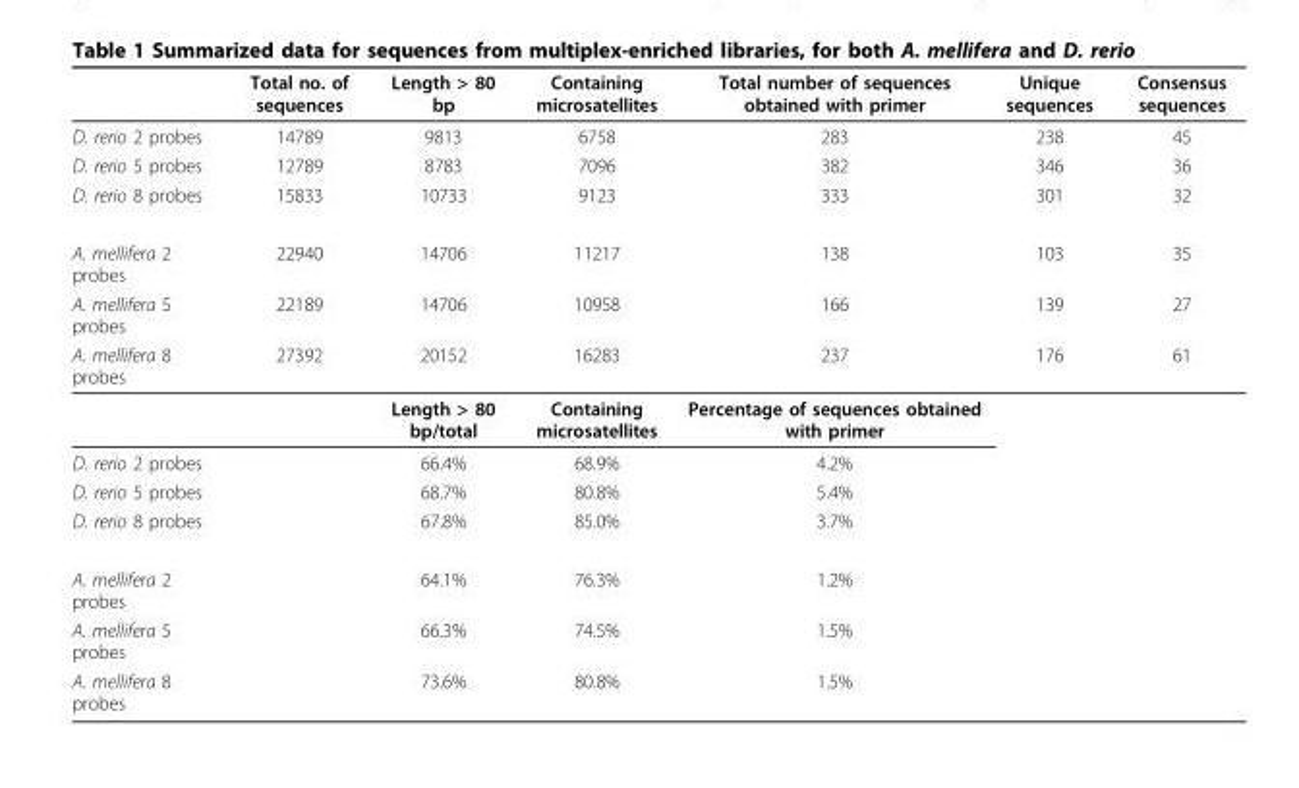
<table><thead><tr><td></td><td>Total no. of sequences</td><td>Length &gt; 80 bp</td><td>Containing microsatellites</td><td>Total number of sequences obtained with primer</td><td>Unique sequences</td><td>Consensus sequences</td></tr></thead><tbody><tr><td>D. rerio 2 probes</td><td>14789</td><td>9813</td><td>6758</td><td>283</td><td>238</td><td>45</td></tr><tr><td>D. rerio 5 probes</td><td>12789</td><td>8783</td><td>7096</td><td>382</td><td>346</td><td>36</td></tr><tr><td>D. rerio 8 probes</td><td>15833</td><td>10733</td><td>9123</td><td>333</td><td>301</td><td>32</td></tr><tr><td>A. mellifera 2 probes</td><td>22940</td><td>14706</td><td>11217</td><td>138</td><td>103</td><td>35</td></tr><tr><td>A. mellifera 5 probes</td><td>22189</td><td>14706</td><td>10958</td><td>166</td><td>139</td><td>27</td></tr><tr><td rowspan="2">A. mellifera 8 probes</td><td>27392</td><td>20152</td><td>16283</td><td>237</td><td>176</td><td>61</td></tr><tr><td></td><td>Length &gt; 80 bp/total</td><td>Containing microsatellites</td><td>Percentage of sequences obtained with primer</td><td></td><td></td></tr><tr><td>D. rerio 2 probes</td><td></td><td>66.4%</td><td>68.9%</td><td>4.2%</td><td></td><td></td></tr><tr><td>D. rerio 5 probes</td><td></td><td>68.7%</td><td>80.8%</td><td>5.4%</td><td></td><td></td></tr><tr><td>D. rerio 8 probes</td><td></td><td>67.8%</td><td>85.0%</td><td>3.7%</td><td></td><td></td></tr><tr><td>A. mellifera 2 probes</td><td></td><td>64.1%</td><td>76.3%</td><td>1.2%</td><td></td><td></td></tr><tr><td>A. mellifera 5 probes</td><td></td><td>66.3%</td><td>74.5%</td><td>1.5%</td><td></td><td></td></tr><tr><td>A. mellifera 8 probes</td><td></td><td>73.6%</td><td>80.8%</td><td>1.5%</td><td></td><td></td></tr></tbody></table>